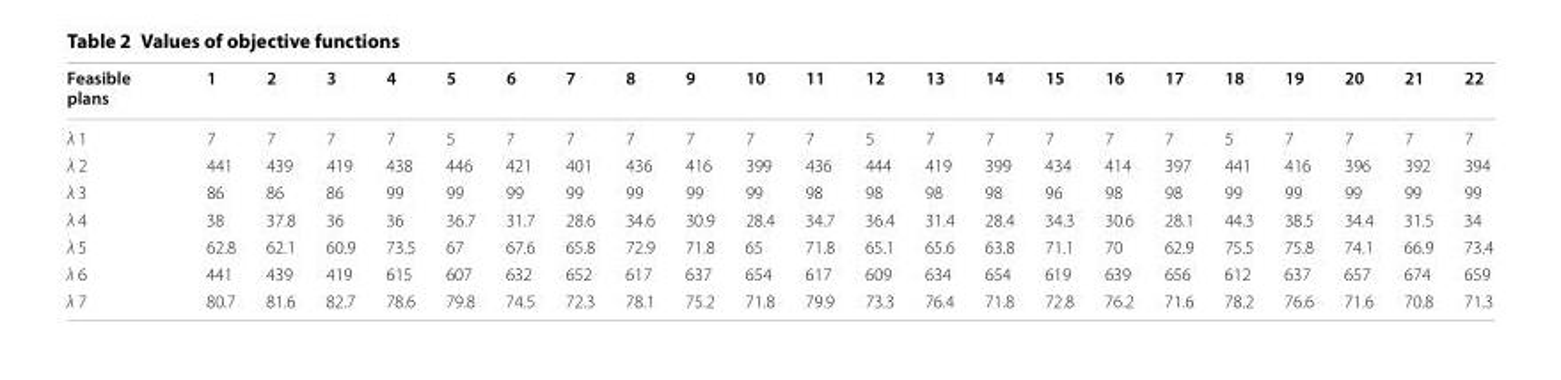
<table><thead><tr><td>Feasible plans</td><td>1</td><td>2</td><td>3</td><td>4</td><td>5</td><td>6</td><td>7</td><td>8</td><td>9</td><td>10</td><td>11</td><td>12</td><td>13</td><td>14</td><td>15</td><td>16</td><td>17</td><td>18</td><td>19</td><td>20</td><td>21</td><td>22</td></tr></thead><tbody><tr><td>λ 1</td><td>7</td><td>7</td><td>7</td><td>7</td><td>5</td><td>7</td><td>7</td><td>7</td><td>7</td><td>7</td><td>7</td><td>5</td><td>7</td><td>7</td><td>7</td><td>7</td><td>7</td><td>5</td><td>7</td><td>7</td><td>7</td><td>7</td></tr><tr><td>λ 2</td><td>441</td><td>439</td><td>419</td><td>438</td><td>446</td><td>421</td><td>401</td><td>436</td><td>416</td><td>399</td><td>436</td><td>444</td><td>419</td><td>399</td><td>434</td><td>414</td><td>397</td><td>441</td><td>416</td><td>396</td><td>392</td><td>394</td></tr><tr><td>λ 3</td><td>86</td><td>86</td><td>86</td><td>99</td><td>99</td><td>99</td><td>99</td><td>99</td><td>99</td><td>99</td><td>98</td><td>98</td><td>98</td><td>98</td><td>96</td><td>98</td><td>98</td><td>99</td><td>99</td><td>99</td><td>99</td><td>99</td></tr><tr><td>λ 4</td><td>38</td><td>37.8</td><td>36</td><td>36</td><td>36.7</td><td>31.7</td><td>28.6</td><td>34.6</td><td>30.9</td><td>28.4</td><td>34.7</td><td>36.4</td><td>31.4</td><td>28.4</td><td>34.3</td><td>30.6</td><td>28.1</td><td>44.3</td><td>38.5</td><td>34.4</td><td>31.5</td><td>34</td></tr><tr><td>λ 5</td><td>62.8</td><td>62.1</td><td>60.9</td><td>73.5</td><td>67</td><td>67.6</td><td>65.8</td><td>72.9</td><td>71.8</td><td>65</td><td>71.8</td><td>65.1</td><td>65.6</td><td>63.8</td><td>71.1</td><td>70</td><td>62.9</td><td>75.5</td><td>75.8</td><td>74.1</td><td>66.9</td><td>73.4</td></tr><tr><td>λ 6</td><td>441</td><td>439</td><td>419</td><td>615</td><td>607</td><td>632</td><td>652</td><td>617</td><td>637</td><td>654</td><td>617</td><td>609</td><td>634</td><td>654</td><td>619</td><td>639</td><td>656</td><td>612</td><td>637</td><td>657</td><td>674</td><td>659</td></tr><tr><td>λ 7</td><td>80.7</td><td>81.6</td><td>82.7</td><td>78.6</td><td>79.8</td><td>74.5</td><td>72.3</td><td>78.1</td><td>75.2</td><td>71.8</td><td>79.9</td><td>73.3</td><td>76.4</td><td>71.8</td><td>72.8</td><td>76.2</td><td>71.6</td><td>78.2</td><td>76.6</td><td>71.6</td><td>70.8</td><td>71.3</td></tr></tbody></table>